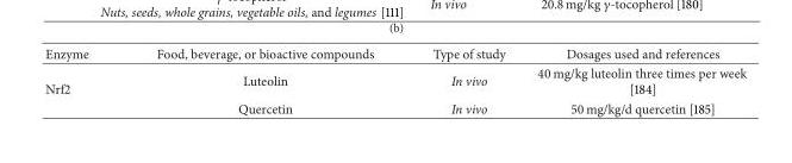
<table><thead><tr><td>Enzyme</td><td>Food, beverage, or bioactive compounds</td><td>Type of study</td><td>Dosages used and references</td></tr></thead><tbody><tr><td rowspan="2">Nrf2</td><td>Luteolin</td><td>In vivo</td><td>40 mg/kg luteolin three times per week [184]</td></tr><tr><td>Quercetin</td><td>In vivo</td><td>50 mg/kg/d quercetin [185]</td></tr></tbody></table>